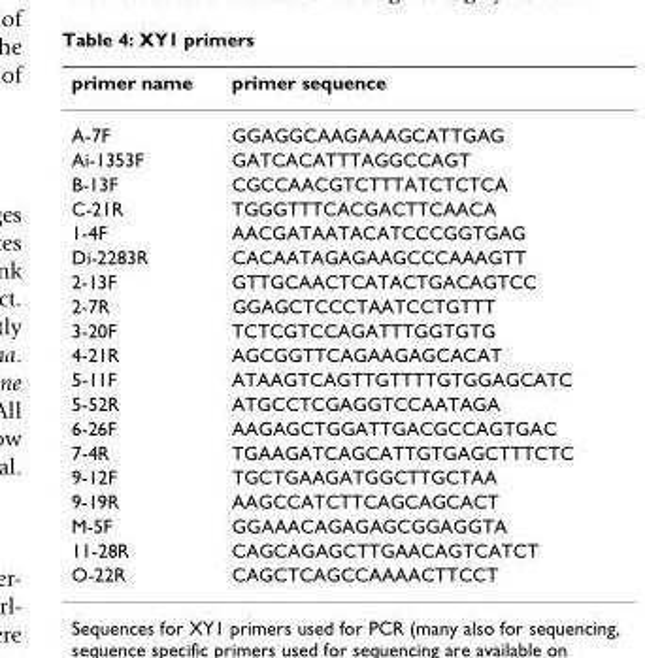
<table><thead><tr><td>primer name</td><td>primer sequence</td></tr></thead><tbody><tr><td>A-7F</td><td>GGAGGCAAGAAAGCATTGAG</td></tr><tr><td>Ai-1353F</td><td>GATCACATTTAGGCCAGT</td></tr><tr><td>B-13F</td><td>CGCCAACGTCTTTATCTCTCA</td></tr><tr><td>C-21R</td><td>TGGGTTTCACGACTTCAACA</td></tr><tr><td>1-4F</td><td>AACGATAATACATCCCGGTGAG</td></tr><tr><td>Di-2283R</td><td>CACAATAGAGAAGCCCAAAGTT</td></tr><tr><td>2-13F</td><td>GTTGCAACTCATACTGACAGTCC</td></tr><tr><td>2-7R</td><td>GGAGCTCCCTAATCCTGTTT</td></tr><tr><td>3-20F</td><td>TCTCGTCCAGATTTGGTGTG</td></tr><tr><td>4-21R</td><td>AGCGGTTCAGAAGAGCACAT</td></tr><tr><td>5-11F</td><td>ATAAGTCAGTTGTTTTGTGGAGCATC</td></tr><tr><td>5-52R</td><td>ATGCCTCGAGGTCCAATAGA</td></tr><tr><td>6-26F</td><td>AAGAGCTGGATTGACGCCAGTGAC</td></tr><tr><td>7-4R</td><td>TGAAGATCAGCATTGTGAGCTTTCTC</td></tr><tr><td>9-12F</td><td>TGCTGAAGATGGCTTGCTAA</td></tr><tr><td>9-19R</td><td>AAGCCATCTTCAGCAGCACT</td></tr><tr><td>M-5F</td><td>GGAAACAGAGAGCGGAGGTA</td></tr><tr><td>11-28R</td><td>CAGCAGAGCTTGAACAGTCATCT</td></tr><tr><td>O-22R</td><td>CAGCTCAGCCAAAACTTCCT</td></tr></tbody></table>